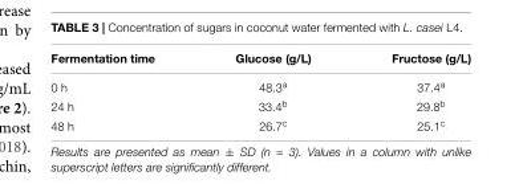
<table><thead><tr><td>Fermentation time</td><td>Glucose (g/L)</td><td>Fructose (g/L)</td></tr></thead><tbody><tr><td>0 h</td><td>48.3<sup>a</sup></td><td>37.4<sup>a</sup></td></tr><tr><td>24 h</td><td>33.4<sup>b</sup></td><td>29.8<sup>b</sup></td></tr><tr><td>48 h</td><td>26.7<sup>c</sup></td><td>25.1<sup>c</sup></td></tr></tbody></table>